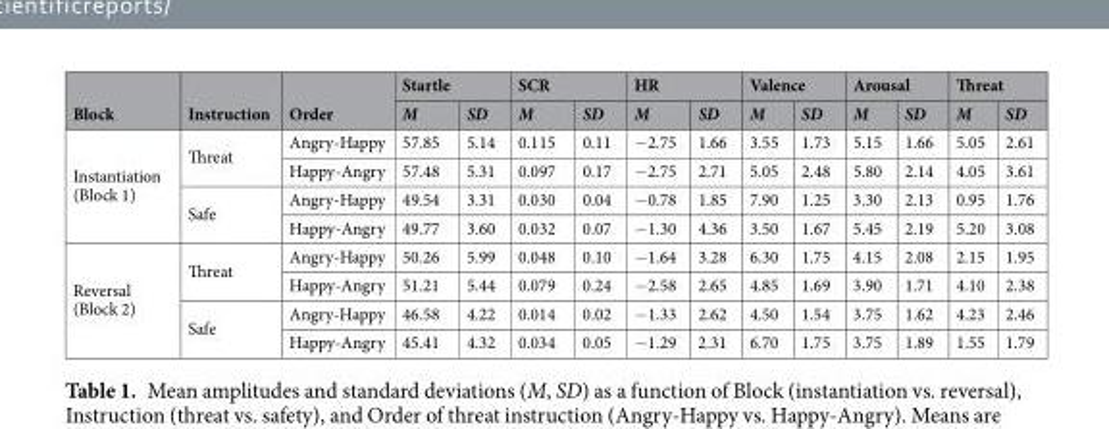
<table><thead><tr><td rowspan="2">Block</td><td rowspan="2">Instruction</td><td rowspan="2">Order</td><td colspan="2">Startle</td><td colspan="2">SCR</td><td colspan="2">HR</td><td colspan="2">Valence</td><td colspan="2">Arousal</td><td colspan="2">Threat</td></tr><tr><td>M</td><td>SD</td><td>M</td><td>SD</td><td>M</td><td>SD</td><td>M</td><td>SD</td><td>M</td><td>SD</td><td>M</td><td>SD</td></tr></thead><tbody><tr><td rowspan="4">Instantiation (Block 1)</td><td rowspan="2">Threat</td><td>Angry-Happy</td><td>57.85</td><td>5.14</td><td>0.115</td><td>0.11</td><td>−2.75</td><td>1.66</td><td>3.55</td><td>1.73</td><td>5.15</td><td>1.66</td><td>5.05</td><td>2.61</td></tr><tr><td>Happy-Angry</td><td>57.48</td><td>5.31</td><td>0.097</td><td>0.17</td><td>−2.75</td><td>2.71</td><td>5.05</td><td>2.48</td><td>5.80</td><td>2.14</td><td>4.05</td><td>3.61</td></tr><tr><td rowspan="2">Safe</td><td>Angry-Happy</td><td>49.54</td><td>3.31</td><td>0.030</td><td>0.04</td><td>−0.78</td><td>1.85</td><td>7.90</td><td>1.25</td><td>3.30</td><td>2.13</td><td>0.95</td><td>1.76</td></tr><tr><td>Happy-Angry</td><td>49.77</td><td>3.60</td><td>0.032</td><td>0.07</td><td>−1.30</td><td>4.36</td><td>3.50</td><td>1.67</td><td>5.45</td><td>2.19</td><td>5.20</td><td>3.08</td></tr><tr><td rowspan="4">Reversal (Block 2)</td><td rowspan="2">Threat</td><td>Angry-Happy</td><td>50.26</td><td>5.99</td><td>0.048</td><td>0.10</td><td>−1.64</td><td>3.28</td><td>6.30</td><td>1.75</td><td>4.15</td><td>2.08</td><td>2.15</td><td>1.95</td></tr><tr><td>Happy-Angry</td><td>51.21</td><td>5.44</td><td>0.079</td><td>0.24</td><td>−2.58</td><td>2.65</td><td>4.85</td><td>1.69</td><td>3.90</td><td>1.71</td><td>4.10</td><td>2.38</td></tr><tr><td rowspan="2">Safe</td><td>Angry-Happy</td><td>46.58</td><td>4.22</td><td>0.014</td><td>0.02</td><td>−1.33</td><td>2.62</td><td>4.50</td><td>1.54</td><td>3.75</td><td>1.62</td><td>4.23</td><td>2.46</td></tr><tr><td>Happy-Angry</td><td>45.41</td><td>4.32</td><td>0.034</td><td>0.05</td><td>−1.29</td><td>2.31</td><td>6.70</td><td>1.75</td><td>3.75</td><td>1.89</td><td>1.55</td><td>1.79</td></tr></tbody></table>